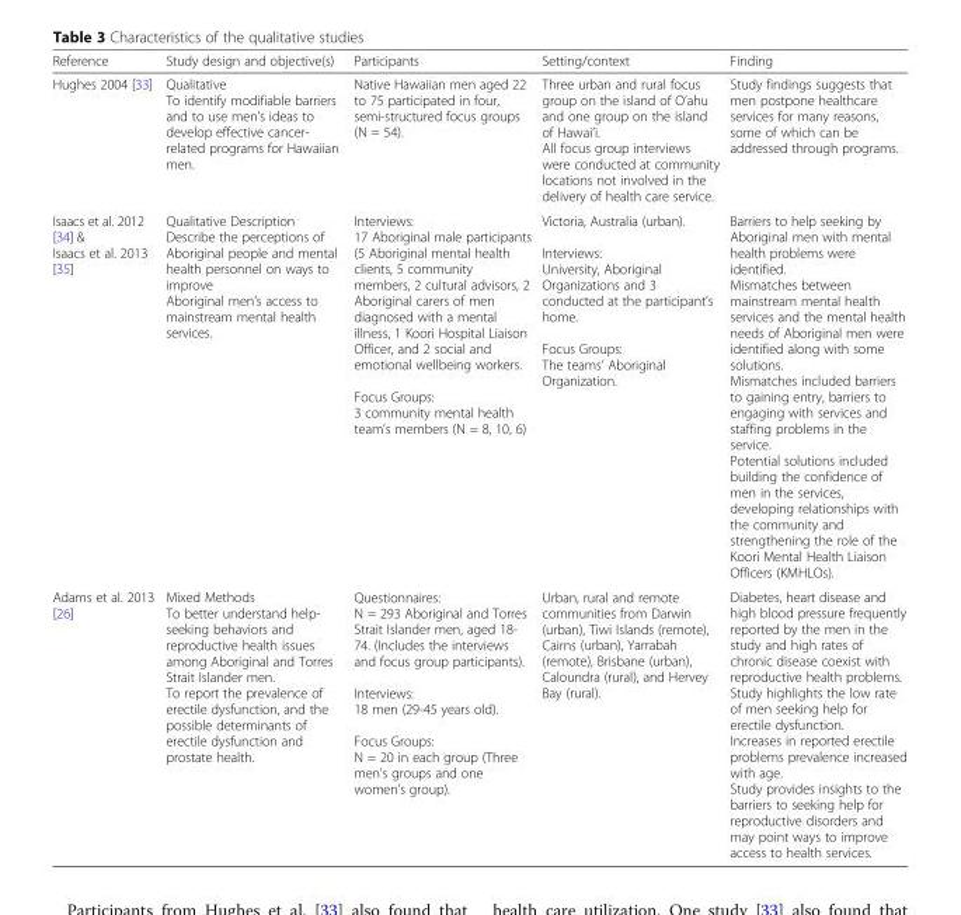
<table><thead><tr><td>Reference</td><td>Study design and objective(s)</td><td>Participants</td><td>Setting/context</td><td>Finding</td></tr></thead><tbody><tr><td>Hughes 2004 [33]</td><td>Qualitative To identify modifiable barriers and to use men’s ideas to develop effective cancer- related programs for Hawaiian men.</td><td>Native Hawaiian men aged 22 to 75 participated in four, semi-structured focus groups (N = 54).</td><td>Three urban and rural focus group on the island of O’ahu and one group on the island of Hawai’i. All focus group interviews were conducted at community locations not involved in the delivery of health care service.</td><td>Study findings suggests that men postpone healthcare services for many reasons, some of which can be addressed through programs.</td></tr><tr><td>Isaacs et al. 2012 [34] &amp; Isaacs et al. 2013 [35]</td><td>Qualitative Description Describe the perceptions of Aboriginal people and mental health personnel on ways to improve Aboriginal men’s access to mainstream mental health services.</td><td>Interviews: 17 Aboriginal male participants (5 Aboriginal mental health clients, 5 community members, 2 cultural advisors, 2 Aboriginal carers of men diagnosed with a mental illness, 1 Koori Hospital Liaison Officer, and 2 social and emotional wellbeing workers. Focus Groups: 3 community mental health team’s members (N = 8, 10, 6)</td><td>Victoria, Australia (urban). Interviews: University, Aboriginal Organizations and 3 conducted at the participant’s home. Focus Groups: The teams’ Aboriginal Organization.</td><td>Barriers to help seeking by Aboriginal men with mental health problems were identified. Mismatches between mainstream mental health services and the mental health needs of Aboriginal men were identified along with some solutions. Mismatches included barriers to gaining entry, barriers to engaging with services and staffing problems in the service. Potential solutions included building the confidence of men in the services, developing relationships with the community and strengthening the role of the Koori Mental Health Liaison Officers (KMHLOs).</td></tr><tr><td>Adams et al. 2013 [26]</td><td>Mixed Methods To better understand help- seeking behaviors and reproductive health issues among Aboriginal and Torres Strait Islander men. To report the prevalence of erectile dysfunction, and the possible determinants of erectile dysfunction and prostate health.</td><td>Questionnaires: N = 293 Aboriginal and Torres Strait Islander men, aged 18- 74. (Includes the interviews and focus group participants). Interviews: 18 men (29-45 years old). Focus Groups: N = 20 in each group (Three men’s groups and one women’s group).</td><td>Urban, rural and remote communities from Darwin (urban), Tiwi Islands (remote), Cairns (urban), Yarrabah (remote), Brisbane (urban), Caloundra (rural), and Hervey Bay (rural).</td><td>Diabetes, heart disease and high blood pressure frequently reported by the men in the study and high rates of chronic disease coexist with reproductive health problems. Study highlights the low rate of men seeking help for erectile dysfunction. Increases in reported erectile problems prevalence increased with age. Study provides insights to the barriers to seeking help for reproductive disorders and may point ways to improve access to health services.</td></tr></tbody></table>